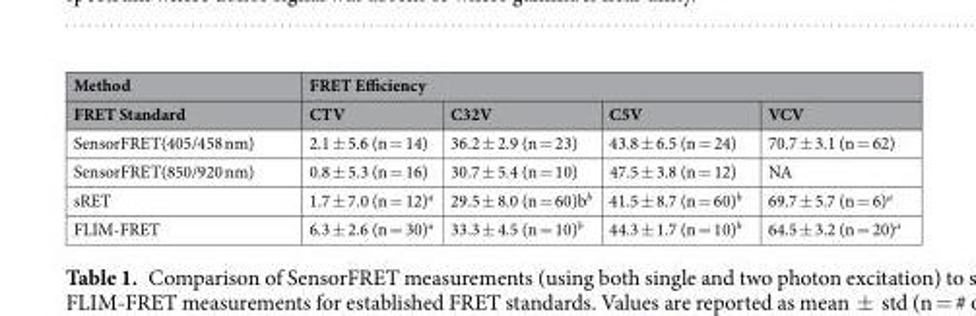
<table><thead><tr><td rowspan="2">Method FRET Standard</td><td colspan="4">FRET Efficiency</td></tr><tr><td>CTV</td><td>C32V</td><td>C5V</td><td>VCV</td></tr></thead><tbody><tr><td>SensorFRET(405/458 nm)</td><td>2.1 ± 5.6 (n = 14)</td><td>36.2 ± 2.9 (n = 23)</td><td>43.8 ± 6.5 (n = 24)</td><td>70.7 ± 3.1 (n = 62)</td></tr><tr><td>SensorFRET(850/920 nm)</td><td>0.8 ± 5.3 (n = 16)</td><td>30.7 ± 5.4 (n = 10)</td><td>47.5 ± 3.8 (n = 12)</td><td>NA</td></tr><tr><td>sRET</td><td>1.7 ± 7.0 (n = 12)<sup>a</sup></td><td>29.5 ± 8.0 (n = 60)b<sup>b</sup></td><td>41.5 ± 8.7 (n = 60)<sup>b</sup></td><td>69.7 ± 5.7 (n = 6)<sup>a</sup></td></tr><tr><td>FLIM-FRET</td><td>6.3 ± 2.6 (n = 30)<sup>a</sup></td><td>33.3 ± 4.5 (n = 10)<sup>b</sup></td><td>44.3 ± 1.7 (n = 10)<sup>b</sup></td><td>64.5 ± 3.2 (n = 20)<sup>a</sup></td></tr></tbody></table>